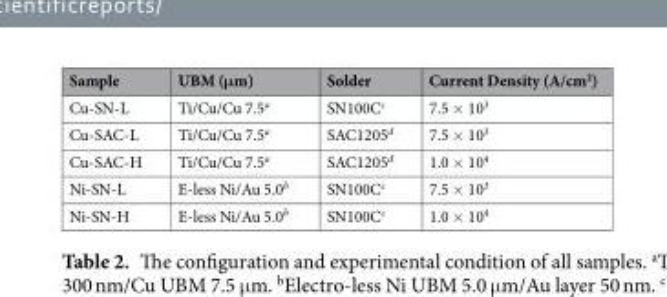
<table><thead><tr><td>Sample</td><td>UBM (μm)</td><td>Solder</td><td>Current Density (A/cm<sup>2</sup>)</td></tr></thead><tbody><tr><td>Cu-SN-L</td><td>Ti/Cu/Cu 7.5<sup>a</sup></td><td>SN100C<sup>c</sup></td><td>7.5 × 10<sup>3</sup></td></tr><tr><td>Cu-SAC-L</td><td>Ti/Cu/Cu 7.5<sup>a</sup></td><td>SAC1205<sup>d</sup></td><td>7.5 × 10<sup>3</sup></td></tr><tr><td>Cu-SAC-H</td><td>Ti/Cu/Cu 7.5<sup>a</sup></td><td>SAC1205<sup>d</sup></td><td>1.0 × 10<sup>4</sup></td></tr><tr><td>Ni-SN-L</td><td>E-less Ni/Au 5.0<sup>b</sup></td><td>SN100C<sup>c</sup></td><td>7.5 × 10<sup>3</sup></td></tr><tr><td>Ni-SN-H</td><td>E-less Ni/Au 5.0<sup>b</sup></td><td>SN100C<sup>c</sup></td><td>1.0 × 10<sup>4</sup></td></tr></tbody></table>